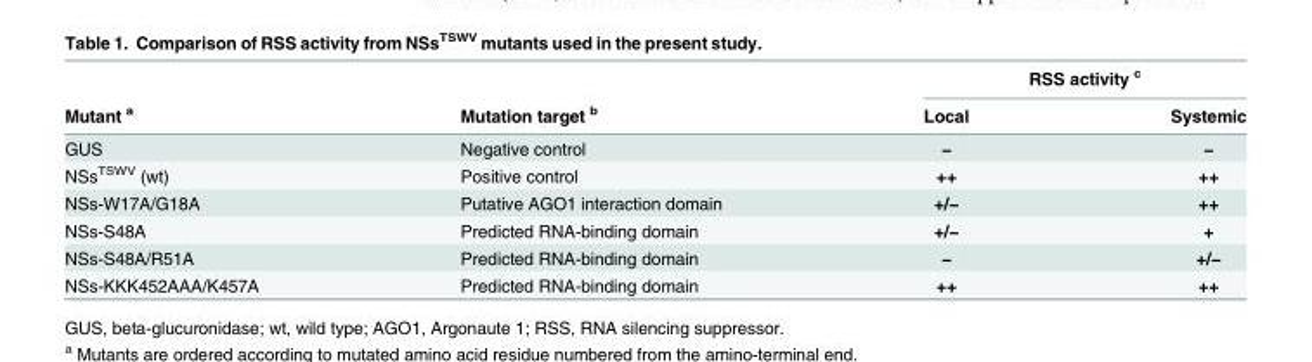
<table><thead><tr><td rowspan="2">Mutant <sup>a</sup></td><td rowspan="2">Mutation target <sup>b</sup></td><td colspan="2">RSS activity <sup>c</sup></td></tr><tr><td>Local</td><td>Systemic</td></tr></thead><tbody><tr><td>GUS</td><td>Negative control</td><td>−</td><td>−</td></tr><tr><td>NSs<sup>TSWV</sup> (wt)</td><td>Positive control</td><td>++</td><td>++</td></tr><tr><td>NSs-W17A/G18A</td><td>Putative AGO1 interaction domain</td><td>+/−</td><td>++</td></tr><tr><td>NSs-S48A</td><td>Predicted RNA-binding domain</td><td>+/−</td><td>+</td></tr><tr><td>NSs-S48A/R51A</td><td>Predicted RNA-binding domain</td><td>−</td><td>+/−</td></tr><tr><td>NSs-KKK452AAA/K457A</td><td>Predicted RNA-binding domain</td><td>++</td><td>++</td></tr></tbody></table>